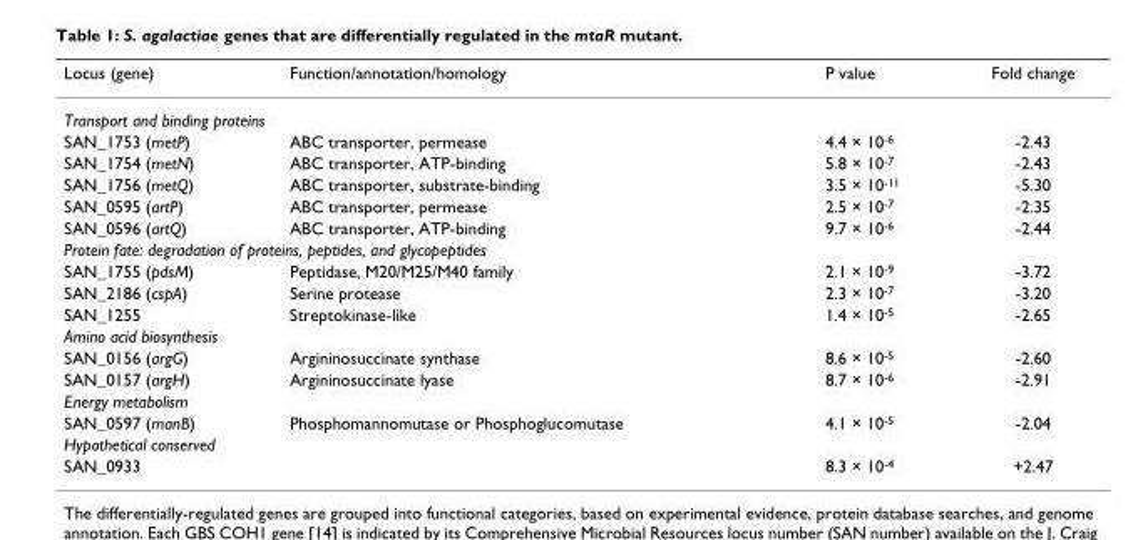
<table><thead><tr><td>Locus (gene)</td><td>Function/annotation/homology</td><td>P value</td><td>Fold change</td></tr></thead><tbody><tr><td colspan="4">Transport and binding proteins</td></tr><tr><td>SAN_1753 (metP)</td><td>ABC transporter, permease</td><td>4.4 × 10<sup>-6</sup></td><td>-2.43</td></tr><tr><td>SAN_1754 (metN)</td><td>ABC transporter, ATP-binding</td><td>5.8 × 10<sup>-7</sup></td><td>-2.43</td></tr><tr><td>SAN_1756 (metQ)</td><td>ABC transporter, substrate-binding</td><td>3.5 × 10<sup>-11</sup></td><td>-5.30</td></tr><tr><td>SAN_0595 (artP)</td><td>ABC transporter, permease</td><td>2.5 × 10<sup>-7</sup></td><td>-2.35</td></tr><tr><td>SAN_0596 (artQ)</td><td>ABC transporter, ATP-binding</td><td>9.7 × 10<sup>-6</sup></td><td>-2.44</td></tr><tr><td colspan="4">Protein fate: degradation of proteins, peptides, and glycopeptides</td></tr><tr><td>SAN_1755 (pdsM)</td><td>Peptidase, M20/M25/M40 family</td><td>2.1 × 10<sup>-9</sup></td><td>-3.72</td></tr><tr><td>SAN_2186 (cspA)</td><td>Serine protease</td><td>2.3 × 10<sup>-7</sup></td><td>-3.20</td></tr><tr><td>SAN_1255</td><td>Streptokinase-like</td><td>1.4 × 10<sup>-5</sup></td><td>-2.65</td></tr><tr><td colspan="4">Amino acid biosynthesis</td></tr><tr><td>SAN_0156 (argG)</td><td>Argininosuccinate synthase</td><td>8.6 × 10<sup>-5</sup></td><td>-2.60</td></tr><tr><td>SAN_0157 (argH)</td><td>Argininosuccinate lyase</td><td>8.7 × 10<sup>-6</sup></td><td>-2.91</td></tr><tr><td colspan="4">Energy metabolism</td></tr><tr><td>SAN_0597 (manB)</td><td>Phosphomannomutase or Phosphoglucomutase</td><td>4.1 × 10<sup>-5</sup></td><td>-2.04</td></tr><tr><td colspan="4">Hypothetical conserved</td></tr><tr><td>SAN_0933</td><td></td><td>8.3 × 10<sup>-4</sup></td><td>+2.47</td></tr></tbody></table>